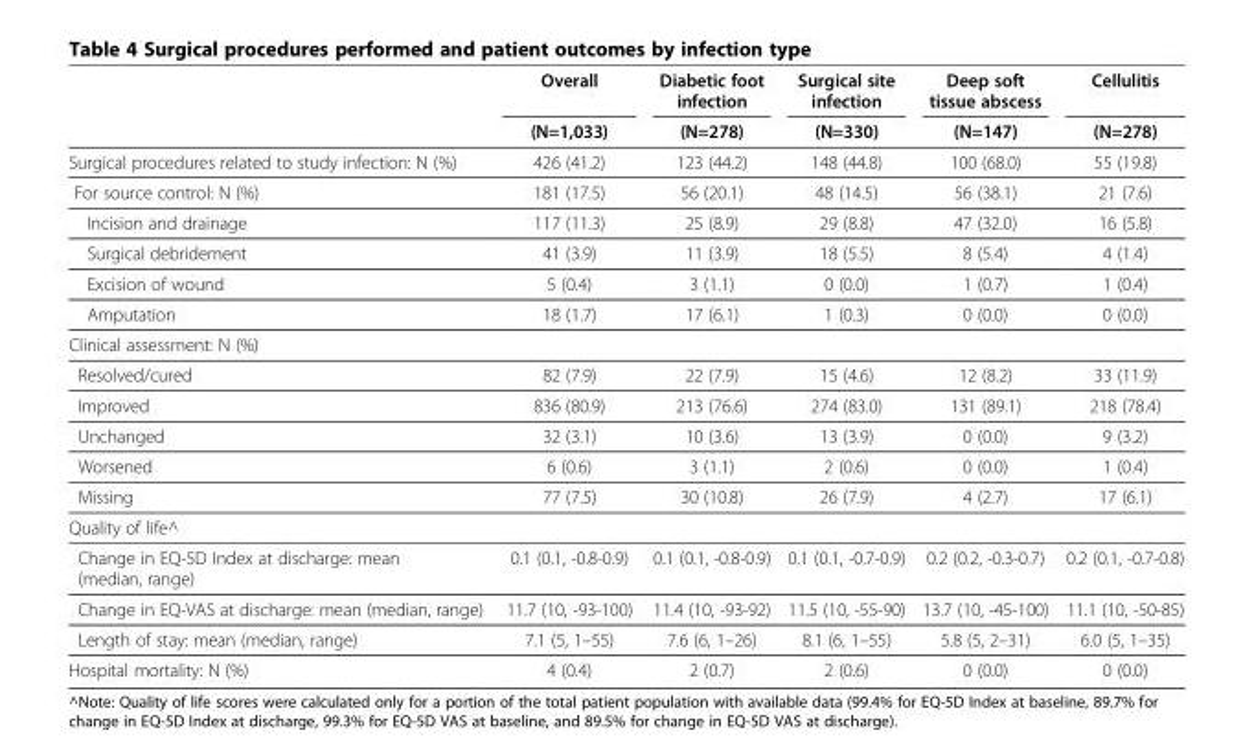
<table><thead><tr><td rowspan="2"></td><td rowspan="2">Overall (N=1,033)</td><td rowspan="2">Diabetic foot infection (N=278)</td><td rowspan="2">Surgical site infection (N=330)</td><td rowspan="2">Deep soft tissue abscess (N=147)</td><td rowspan="2">Cellulitis (N=278)</td></tr><tr></tr></thead><tbody><tr><td>Surgical procedures related to study infection: N (%)</td><td>426 (41.2)</td><td>123 (44.2)</td><td>148 (44.8)</td><td>100 (68.0)</td><td>55 (19.8)</td></tr><tr><td>For source control: N (%)</td><td>181 (17.5)</td><td>56 (20.1)</td><td>48 (14.5)</td><td>56 (38.1)</td><td>21 (7.6)</td></tr><tr><td>Incision and drainage</td><td>117 (11.3)</td><td>25 (8.9)</td><td>29 (8.8)</td><td>47 (32.0)</td><td>16 (5.8)</td></tr><tr><td>Surgical debridement</td><td>41 (3.9)</td><td>11 (3.9)</td><td>18 (5.5)</td><td>8 (5.4)</td><td>4 (1.4)</td></tr><tr><td>Excision of wound</td><td>5 (0.4)</td><td>3 (1.1)</td><td>0 (0.0)</td><td>1 (0.7)</td><td>1 (0.4)</td></tr><tr><td>Amputation</td><td>18 (1.7)</td><td>17 (6.1)</td><td>1 (0.3)</td><td>0 (0.0)</td><td>0 (0.0)</td></tr><tr><td colspan="6">Clinical assessment: N (%)</td></tr><tr><td>Resolved/cured</td><td>82 (7.9)</td><td>22 (7.9)</td><td>15 (4.6)</td><td>12 (8.2)</td><td>33 (11.9)</td></tr><tr><td>Improved</td><td>836 (80.9)</td><td>213 (76.6)</td><td>274 (83.0)</td><td>131 (89.1)</td><td>218 (78.4)</td></tr><tr><td>Unchanged</td><td>32 (3.1)</td><td>10 (3.6)</td><td>13 (3.9)</td><td>0 (0.0)</td><td>9 (3.2)</td></tr><tr><td>Worsened</td><td>6 (0.6)</td><td>3 (1.1)</td><td>2 (0.6)</td><td>0 (0.0)</td><td>1 (0.4)</td></tr><tr><td>Missing</td><td>77 (7.5)</td><td>30 (10.8)</td><td>26 (7.9)</td><td>4 (2.7)</td><td>17 (6.1)</td></tr><tr><td colspan="6">Quality of life^</td></tr><tr><td>Change in EQ-5D Index at discharge: mean (median, range)</td><td>0.1 (0.1, -0.8-0.9)</td><td>0.1 (0.1, -0.8-0.9)</td><td>0.1 (0.1, -0.7-0.9)</td><td>0.2 (0.2, -0.3-0.7)</td><td>0.2 (0.1, -0.7-0.8)</td></tr><tr><td>Change in EQ-VAS at discharge: mean (median, range)</td><td>11.7 (10, -93-100)</td><td>11.4 (10, -93-92)</td><td>11.5 (10, -55-90)</td><td>13.7 (10, -45-100)</td><td>11.1 (10, -50-85)</td></tr><tr><td>Length of stay: mean (median, range)</td><td>7.1 (5, 1–55)</td><td>7.6 (6, 1–26)</td><td>8.1 (6, 1–55)</td><td>5.8 (5, 2–31)</td><td>6.0 (5, 1–35)</td></tr><tr><td>Hospital mortality: N (%)</td><td>4 (0.4)</td><td>2 (0.7)</td><td>2 (0.6)</td><td>0 (0.0)</td><td>0 (0.0)</td></tr></tbody></table>